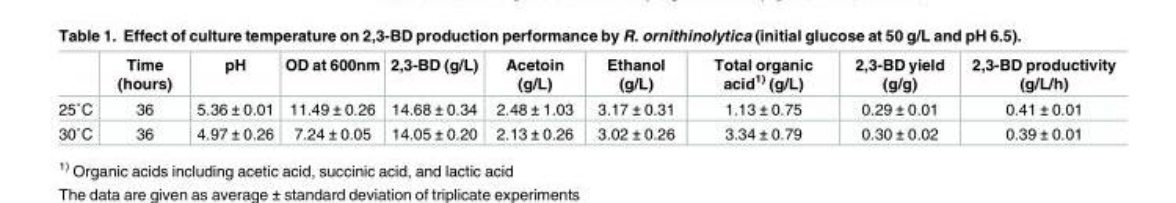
<table><thead><tr><td></td><td>Time (hours)</td><td>pH</td><td>OD at 600nm</td><td>2,3-BD (g/L)</td><td>Acetoin (g/L)</td><td>Ethanol (g/L)</td><td>Total organic acid<sup>1)</sup> (g/L)</td><td>2,3-BD yield (g/g)</td><td>2,3-BD productivity (g/L/h)</td></tr></thead><tbody><tr><td>25˚C</td><td>36</td><td>5.36 ± 0.01</td><td>11.49 ± 0.26</td><td>14.68 ± 0.34</td><td>2.48 ± 1.03</td><td>3.17 ± 0.31</td><td>1.13 ± 0.75</td><td>0.29 ± 0.01</td><td>0.41 ± 0.01</td></tr><tr><td>30˚C</td><td>36</td><td>4.97 ± 0.26</td><td>7.24 ± 0.05</td><td>14.05 ± 0.20</td><td>2.13 ± 0.26</td><td>3.02 ± 0.26</td><td>3.34 ± 0.79</td><td>0.30 ± 0.02</td><td>0.39 ± 0.01</td></tr></tbody></table>